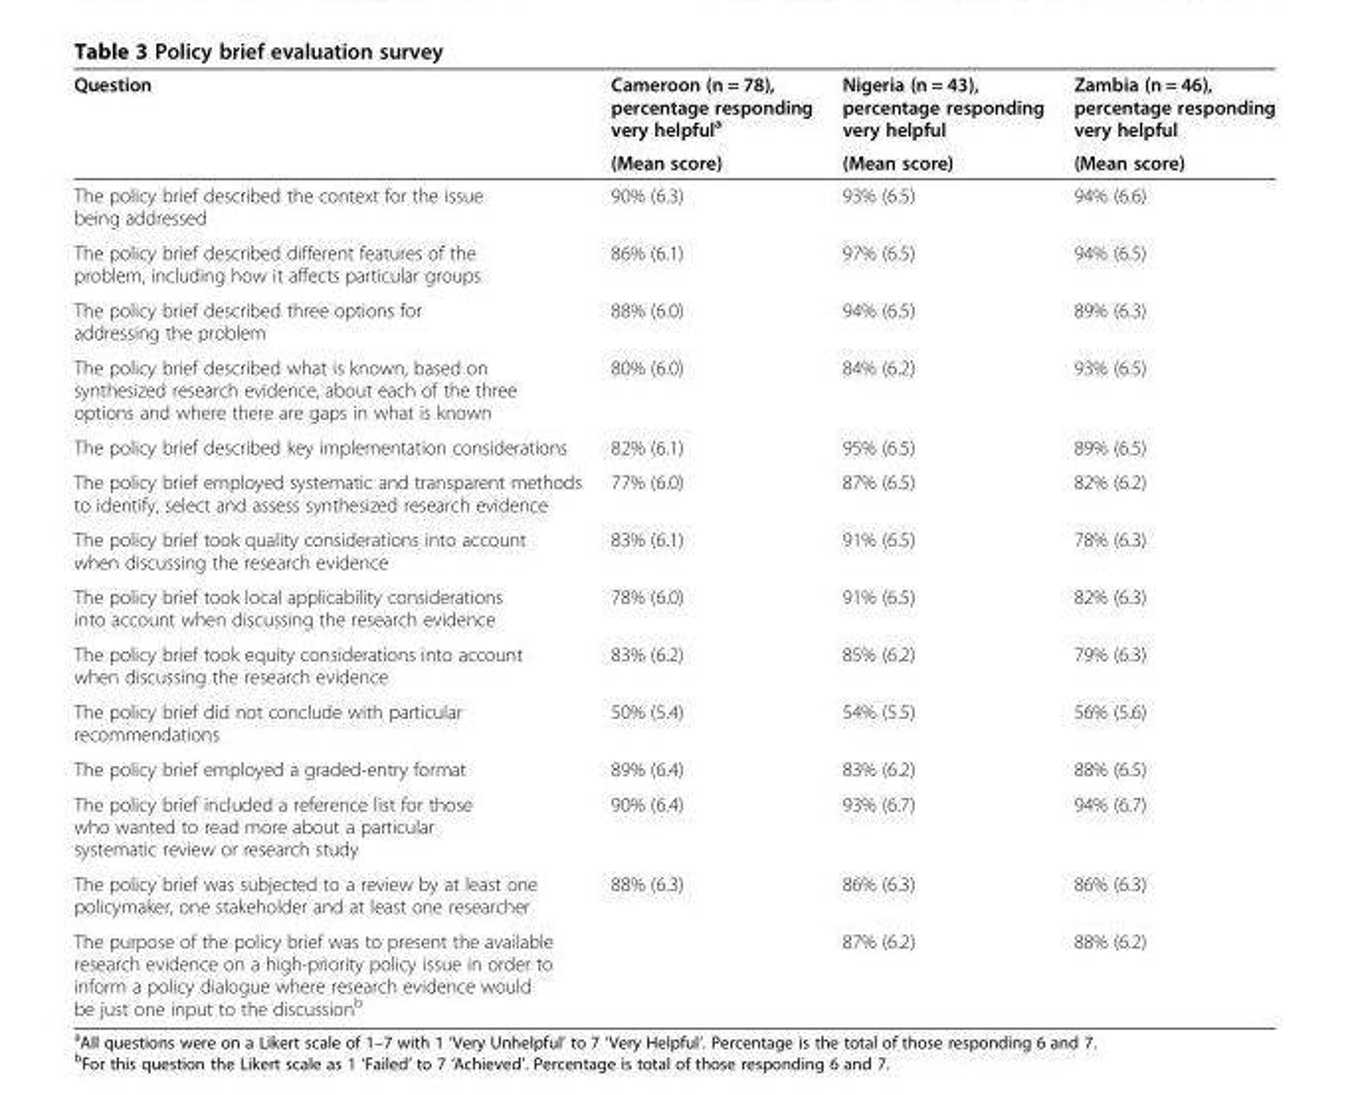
<table><thead><tr><td rowspan="2">Question</td><td rowspan="2">Cameroon (n = 78), percentage responding very helpful<sup>a</sup> (Mean score)</td><td rowspan="2">Nigeria (n = 43), percentage responding very helpful (Mean score)</td><td rowspan="2">Zambia (n = 46), percentage responding very helpful (Mean score)</td></tr><tr></tr></thead><tbody><tr><td>The policy brief described the context for the issue being addressed</td><td>90% (6.3)</td><td>93% (6.5)</td><td>94% (6.6)</td></tr><tr><td>The policy brief described different features of the problem, including how it affects particular groups</td><td>86% (6.1)</td><td>97% (6.5)</td><td>94% (6.5)</td></tr><tr><td>The policy brief described three options for addressing the problem</td><td>88% (6.0)</td><td>94% (6.5)</td><td>89% (6.3)</td></tr><tr><td>The policy brief described what is known, based on synthesized research evidence, about each of the three options and where there are gaps in what is known</td><td>80% (6.0)</td><td>84% (6.2)</td><td>93% (6.5)</td></tr><tr><td>The policy brief described key implementation considerations</td><td>82% (6.1)</td><td>95% (6.5)</td><td>89% (6.5)</td></tr><tr><td>The policy brief employed systematic and transparent methods to identify, select and assess synthesized research evidence</td><td>77% (6.0)</td><td>87% (6.5)</td><td>82% (6.2)</td></tr><tr><td>The policy brief took quality considerations into account when discussing the research evidence</td><td>83% (6.1)</td><td>91% (6.5)</td><td>78% (6.3)</td></tr><tr><td>The policy brief took local applicability considerations into account when discussing the research evidence</td><td>78% (6.0)</td><td>91% (6.5)</td><td>82% (6.3)</td></tr><tr><td>The policy brief took equity considerations into account when discussing the research evidence</td><td>83% (6.2)</td><td>85% (6.2)</td><td>79% (6.3)</td></tr><tr><td>The policy brief did not conclude with particular recommendations</td><td>50% (5.4)</td><td>54% (5.5)</td><td>56% (5.6)</td></tr><tr><td>The policy brief employed a graded-entry format</td><td>89% (6.4)</td><td>83% (6.2)</td><td>88% (6.5)</td></tr><tr><td>The policy brief included a reference list for those who wanted to read more about a particular systematic review or research study</td><td>90% (6.4)</td><td>93% (6.7)</td><td>94% (6.7)</td></tr><tr><td>The policy brief was subjected to a review by at least one policymaker, one stakeholder and at least one researcher</td><td>88% (6.3)</td><td>86% (6.3)</td><td>86% (6.3)</td></tr><tr><td>The purpose of the policy brief was to present the available research evidence on a high-priority policy issue in order to inform a policy dialogue where research evidence would be just one input to the discussion<sup>b</sup></td><td></td><td>87% (6.2)</td><td>88% (6.2)</td></tr></tbody></table>